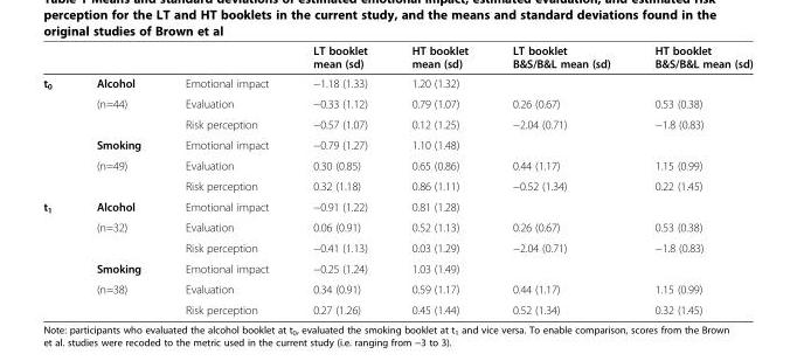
<table><thead><tr><td></td><td></td><td></td><td>LT booklet mean (sd)</td><td>HT booklet mean (sd)</td><td>LT booklet B&amp;S/B&amp;L mean (sd)</td><td>HT booklet B&amp;S/B&amp;L mean (sd)</td></tr></thead><tbody><tr><td rowspan="6">t<sub>0</sub></td><td>Alcohol</td><td>Emotional impact</td><td>−1.18 (1.33)</td><td>1.20 (1.32)</td><td></td><td></td></tr><tr><td>(n=44)</td><td>Evaluation</td><td>−0.33 (1.12)</td><td>0.79 (1.07)</td><td>0.26 (0.67)</td><td>0.53 (0.38)</td></tr><tr><td></td><td>Risk perception</td><td>−0.57 (1.07)</td><td>0.12 (1.25)</td><td>−2.04 (0.71)</td><td>−1.8 (0.83)</td></tr><tr><td>Smoking</td><td>Emotional impact</td><td>−0.79 (1.27)</td><td>1.10 (1.48)</td><td></td><td></td></tr><tr><td>(n=49)</td><td>Evaluation</td><td>0.30 (0.85)</td><td>0.65 (0.86)</td><td>0.44 (1.17)</td><td>1.15 (0.99)</td></tr><tr><td></td><td>Risk perception</td><td>0.32 (1.18)</td><td>0.86 (1.11)</td><td>−0.52 (1.34)</td><td>0.22 (1.45)</td></tr><tr><td rowspan="6">t<sub>1</sub></td><td>Alcohol</td><td>Emotional impact</td><td>−0.91 (1.22)</td><td>0.81 (1.28)</td><td></td><td></td></tr><tr><td>(n=32)</td><td>Evaluation</td><td>0.06 (0.91)</td><td>0.52 (1.13)</td><td>0.26 (0.67)</td><td>0.53 (0.38)</td></tr><tr><td></td><td>Risk perception</td><td>−0.41 (1.13)</td><td>0.03 (1.29)</td><td>−2.04 (0.71)</td><td>−1.8 (0.83)</td></tr><tr><td>Smoking</td><td>Emotional impact</td><td>−0.25 (1.24)</td><td>1.03 (1.49)</td><td></td><td></td></tr><tr><td>(n=38)</td><td>Evaluation</td><td>0.34 (0.91)</td><td>0.59 (1.17)</td><td>0.44 (1.17)</td><td>1.15 (0.99)</td></tr><tr><td></td><td>Risk perception</td><td>0.27 (1.26)</td><td>0.45 (1.44)</td><td>0.52 (1.34)</td><td>0.32 (1.45)</td></tr></tbody></table>